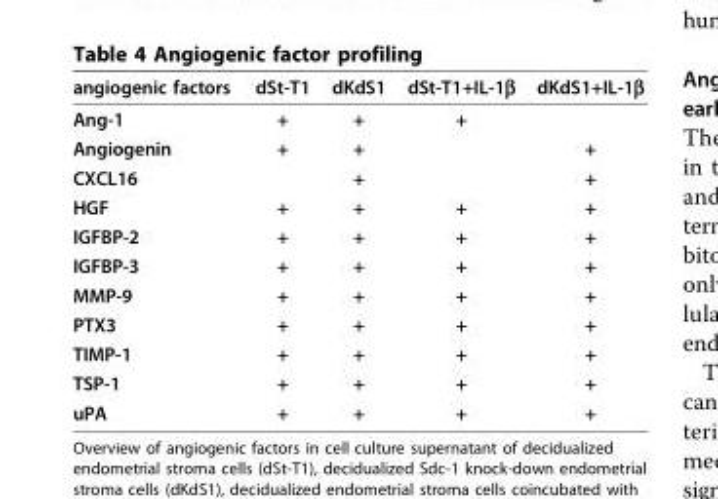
<table><thead><tr><td>angiogenic factors</td><td>dSt-T1</td><td>dKdS1</td><td>dSt-T1+IL-1β</td><td>dKdS1+IL-1β</td></tr></thead><tbody><tr><td>Ang-1</td><td>+</td><td>+</td><td>+</td><td></td></tr><tr><td>Angiogenin</td><td>+</td><td>+</td><td></td><td>+</td></tr><tr><td>CXCL16</td><td></td><td>+</td><td></td><td>+</td></tr><tr><td>HGF</td><td>+</td><td>+</td><td>+</td><td>+</td></tr><tr><td>IGFBP-2</td><td>+</td><td>+</td><td>+</td><td>+</td></tr><tr><td>IGFBP-3</td><td>+</td><td>+</td><td>+</td><td>+</td></tr><tr><td>MMP-9</td><td>+</td><td>+</td><td>+</td><td>+</td></tr><tr><td>PTX3</td><td>+</td><td>+</td><td>+</td><td>+</td></tr><tr><td>TIMP-1</td><td>+</td><td>+</td><td>+</td><td>+</td></tr><tr><td>TSP-1</td><td>+</td><td>+</td><td>+</td><td>+</td></tr><tr><td>uPA</td><td>+</td><td>+</td><td>+</td><td>+</td></tr></tbody></table>